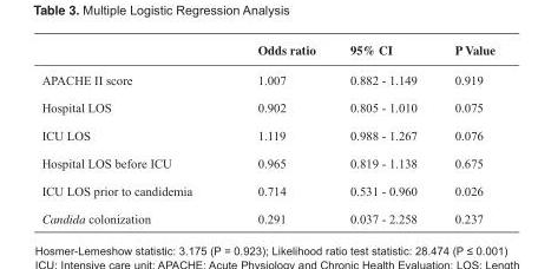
<table><thead><tr><td></td><td>Odds ratio</td><td>95% CI</td><td>P Value</td></tr></thead><tbody><tr><td>APACHE II score</td><td>1.007</td><td>0.882 - 1.149</td><td>0.919</td></tr><tr><td>Hospital LOS</td><td>0.902</td><td>0.805 - 1.010</td><td>0.075</td></tr><tr><td>ICU LOS</td><td>1.119</td><td>0.988 - 1.267</td><td>0.076</td></tr><tr><td>Hospital LOS before ICU</td><td>0.965</td><td>0.819 - 1.138</td><td>0.675</td></tr><tr><td>ICU LOS prior to candidemia</td><td>0.714</td><td>0.531 - 0.960</td><td>0.026</td></tr><tr><td>Candida colonization</td><td>0.291</td><td>0.037 - 2.258</td><td>0.237</td></tr></tbody></table>